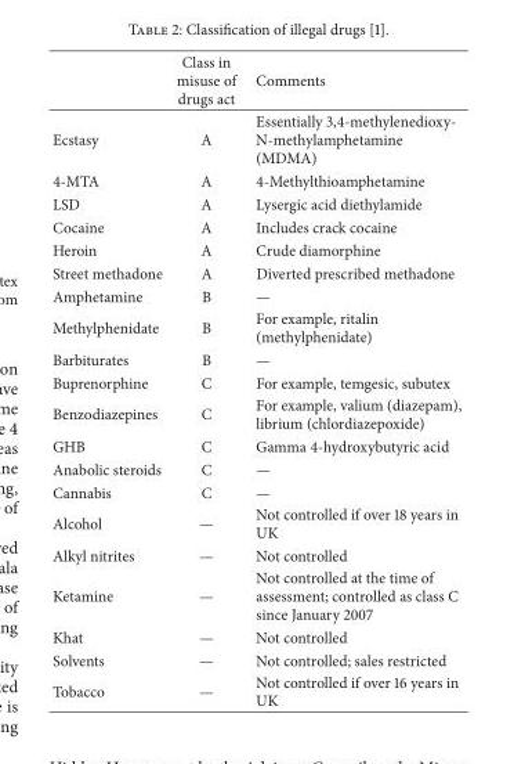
<table><thead><tr><td></td><td>Class in misuse of drugs act</td><td>Comments</td></tr></thead><tbody><tr><td>Ecstasy</td><td>A</td><td>Essentially 3,4-methylenedioxy- N-methylamphetamine (MDMA)</td></tr><tr><td>4-MTA</td><td>A</td><td>4-Methylthioamphetamine</td></tr><tr><td>LSD</td><td>A</td><td>Lysergic acid diethylamide</td></tr><tr><td>Cocaine</td><td>A</td><td>Includes crack cocaine</td></tr><tr><td>Heroin</td><td>A</td><td>Crude diamorphine</td></tr><tr><td>Street methadone</td><td>A</td><td>Diverted prescribed methadone</td></tr><tr><td>Amphetamine</td><td>B</td><td>—</td></tr><tr><td>Methylphenidate</td><td>B</td><td>For example, ritalin (methylphenidate)</td></tr><tr><td>Barbiturates</td><td>B</td><td>—</td></tr><tr><td>Buprenorphine</td><td>C</td><td>For example, temgesic, subutex</td></tr><tr><td>Benzodiazepines</td><td>C</td><td>For example, valium (diazepam), librium (chlordiazepoxide)</td></tr><tr><td>GHB</td><td>C</td><td>Gamma 4-hydroxybutyric acid</td></tr><tr><td>Anabolic steroids</td><td>C</td><td>—</td></tr><tr><td>Cannabis</td><td>C</td><td>—</td></tr><tr><td>Alcohol</td><td>—</td><td>Not controlled if over 18 years in UK</td></tr><tr><td>Alkyl nitrites</td><td>—</td><td>Not controlled</td></tr><tr><td>Ketamine</td><td>—</td><td>Not controlled at the time of assessment; controlled as class C since January 2007</td></tr><tr><td>Khat</td><td>—</td><td>Not controlled</td></tr><tr><td>Solvents</td><td>—</td><td>Not controlled; sales restricted</td></tr><tr><td>Tobacco</td><td>—</td><td>Not controlled if over 16 years in UK</td></tr></tbody></table>